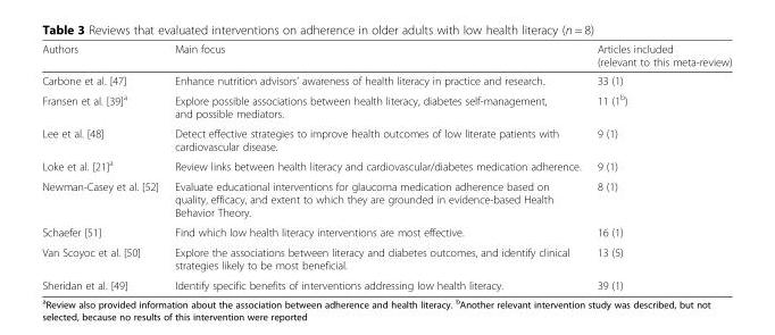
<table><thead><tr><td>Authors</td><td>Main focus</td><td>Articles included (relevant to this meta-review)</td></tr></thead><tbody><tr><td>Carbone et al. [47]</td><td>Enhance nutrition advisors’ awareness of health literacy in practice and research.</td><td>33 (1)</td></tr><tr><td>Fransen et al. [39]<sup>a</sup></td><td>Explore possible associations between health literacy, diabetes self-management, and possible mediators.</td><td>11 (1<sup>b</sup>)</td></tr><tr><td>Lee et al. [48]</td><td>Detect effective strategies to improve health outcomes of low literate patients with cardiovascular disease.</td><td>9 (1)</td></tr><tr><td>Loke et al. [21]<sup>a</sup></td><td>Review links between health literacy and cardiovascular/diabetes medication adherence.</td><td>9 (1)</td></tr><tr><td>Newman-Casey et al. [52]</td><td>Evaluate educational interventions for glaucoma medication adherence based on quality, efficacy, and extent to which they are grounded in evidence-based Health Behavior Theory.</td><td>8 (1)</td></tr><tr><td>Schaefer [51]</td><td>Find which low health literacy interventions are most effective.</td><td>16 (1)</td></tr><tr><td>Van Scoyoc et al. [50]</td><td>Explore the associations between literacy and diabetes outcomes, and identify clinical strategies likely to be most beneficial.</td><td>13 (5)</td></tr><tr><td>Sheridan et al. [49]</td><td>Identify specific benefits of interventions addressing low health literacy.</td><td>39 (1)</td></tr></tbody></table>